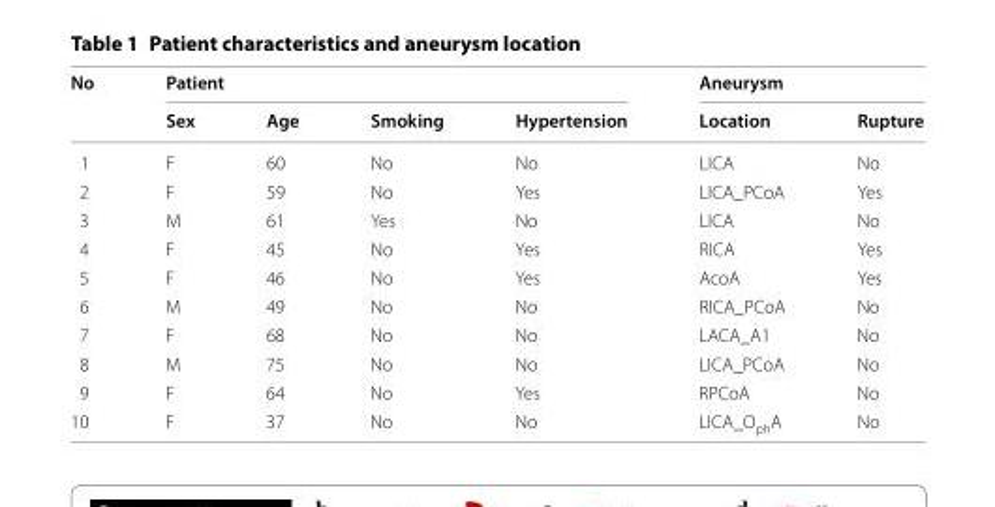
<table><thead><tr><td rowspan="2">No</td><td colspan="4">Patient</td><td colspan="2">Aneurysm</td></tr><tr><td>Sex</td><td>Age</td><td>Smoking</td><td>Hypertension</td><td>Location</td><td>Rupture</td></tr></thead><tbody><tr><td>1</td><td>F</td><td>60</td><td>No</td><td>No</td><td>LICA</td><td>No</td></tr><tr><td>2</td><td>F</td><td>59</td><td>No</td><td>Yes</td><td>LICA_PCoA</td><td>Yes</td></tr><tr><td>3</td><td>M</td><td>61</td><td>Yes</td><td>No</td><td>LICA</td><td>No</td></tr><tr><td>4</td><td>F</td><td>45</td><td>No</td><td>Yes</td><td>RICA</td><td>Yes</td></tr><tr><td>5</td><td>F</td><td>46</td><td>No</td><td>Yes</td><td>AcoA</td><td>Yes</td></tr><tr><td>6</td><td>M</td><td>49</td><td>No</td><td>No</td><td>RICA_PCoA</td><td>No</td></tr><tr><td>7</td><td>F</td><td>68</td><td>No</td><td>No</td><td>LACA_A1</td><td>No</td></tr><tr><td>8</td><td>M</td><td>75</td><td>No</td><td>No</td><td>LICA_PCoA</td><td>No</td></tr><tr><td>9</td><td>F</td><td>64</td><td>No</td><td>Yes</td><td>RPCoA</td><td>No</td></tr><tr><td>10</td><td>F</td><td>37</td><td>No</td><td>No</td><td>LICA_O<sub>ph</sub>A</td><td>No</td></tr></tbody></table>